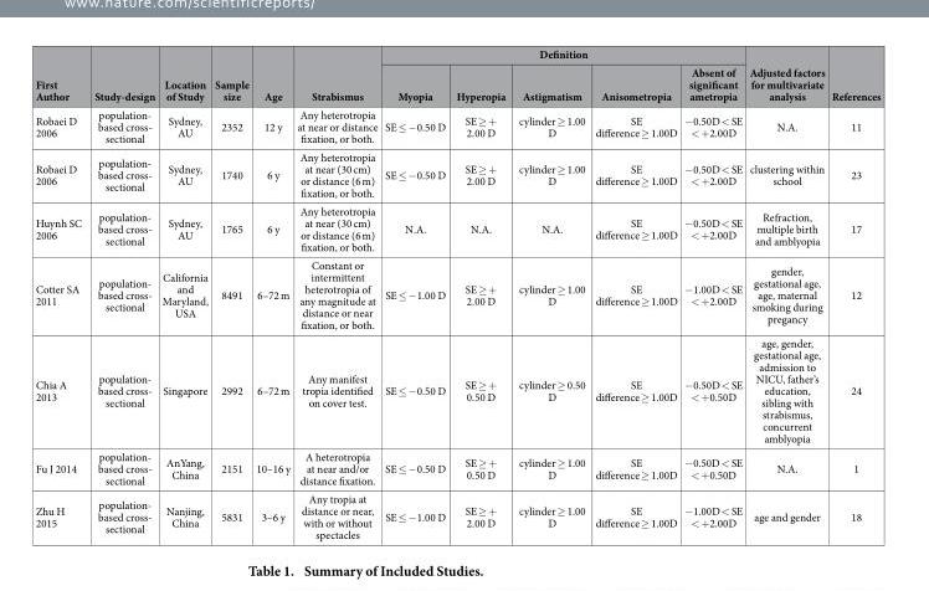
<table><thead><tr><td rowspan="2">First Author</td><td rowspan="2">Study-design</td><td rowspan="2">Location of Study</td><td rowspan="2">Sample size</td><td rowspan="2">Age</td><td rowspan="2">Strabismus</td><td colspan="5">Definition</td><td rowspan="2">Adjusted factors for multivariate analysis</td><td rowspan="2">References</td></tr><tr><td>Myopia</td><td>Hyperopia</td><td>Astigmatism</td><td>Anisometropia</td><td>Absent of significant ametropia</td></tr></thead><tbody><tr><td>Robaei D 2006</td><td>population- based cross- sectional</td><td>Sydney, AU</td><td>2352</td><td>12 y</td><td>Any heterotropia at near or distance fixation, or both.</td><td>SE ≤ − 0.50 D</td><td>SE ≥ + 2.00 D</td><td>cylinder ≥ 1.00 D</td><td>SE difference ≥ 1.00D</td><td>− 0.50D &lt; SE &lt; + 2.00D</td><td>N.A.</td><td>11</td></tr><tr><td>Robaei D 2006</td><td>population- based cross- sectional</td><td>Sydney, AU</td><td>1740</td><td>6 y</td><td>Any heterotropia at near (30 cm) or distance (6 m) fixation, or both.</td><td>SE ≤ − 0.50 D</td><td>SE ≥ + 2.00 D</td><td>cylinder ≥ 1.00 D</td><td>SE difference ≥ 1.00D</td><td>− 0.50D &lt; SE &lt; + 2.00D</td><td>clustering within school</td><td>23</td></tr><tr><td>Huynh SC 2006</td><td>population- based cross- sectional</td><td>Sydney, AU</td><td>1765</td><td>6 y</td><td>Any heterotropia at near (30 cm) or distance (6 m) fixation, or both.</td><td>N.A.</td><td>N.A.</td><td>N.A.</td><td>SE difference ≥ 1.00D</td><td>− 0.50D &lt; SE &lt; + 2.00D</td><td>Refraction, multiple birth and amblyopia</td><td>17</td></tr><tr><td>Cotter SA 2011</td><td>population- based cross- sectional</td><td>California and Maryland, USA</td><td>8491</td><td>6–72 m</td><td>Constant or intermittent heterotropia of any magnitude at distance or near fixation, or both.</td><td>SE ≤ − 1.00 D</td><td>SE ≥ + 2.00 D</td><td>cylinder ≥ 1.00 D</td><td>SE difference ≥ 1.00D</td><td>− 1.00D &lt; SE &lt; + 2.00D</td><td>gender, gestational age, age, maternal smoking during pregancy</td><td>12</td></tr><tr><td>Chia A 2013</td><td>population- based cross- sectional</td><td>Singapore</td><td>2992</td><td>6–72 m</td><td>Any manifest tropia identified on cover test.</td><td>SE ≤ − 0.50 D</td><td>SE ≥ + 0.50 D</td><td>cylinder ≥ 0.50 D</td><td>SE difference ≥ 1.00D</td><td>− 0.50D &lt; SE &lt; + 0.50D</td><td>age, gender, gestational age, admission to NICU, father’s education, sibling with strabismus, concurrent amblyopia</td><td>24</td></tr><tr><td>Fu J 2014</td><td>population- based cross- sectional</td><td>AnYang, China</td><td>2151</td><td>10–16 y</td><td>A heterotropia at near and/or distance fixation.</td><td>SE ≤ − 0.50 D</td><td>SE ≥ + 0.50 D</td><td>cylinder ≥ 1.00 D</td><td>SE difference ≥ 1.00D</td><td>− 0.50D &lt; SE &lt; + 0.50D</td><td>N.A.</td><td>1</td></tr><tr><td>Zhu H 2015</td><td>population- based cross- sectional</td><td>Nanjing, China</td><td>5831</td><td>3–6 y</td><td>Any tropia at distance or near, with or without spectacles</td><td>SE ≤ − 1.00 D</td><td>SE ≥ + 2.00 D</td><td>cylinder ≥ 1.00 D</td><td>SE difference ≥ 1.00D</td><td>− 1.00D &lt; SE &lt; + 2.00D</td><td>age and gender</td><td>18</td></tr></tbody></table>